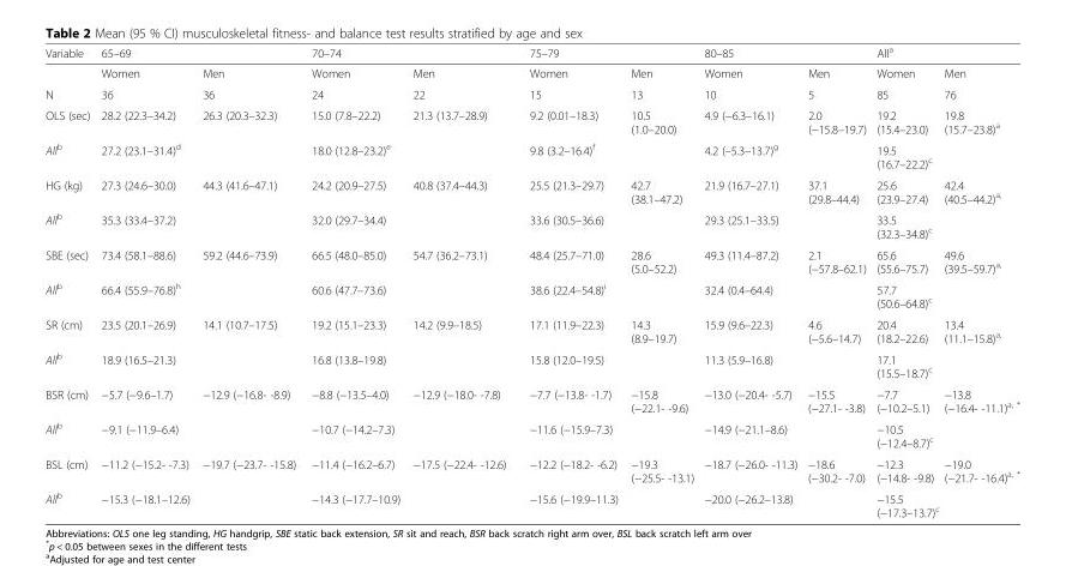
<table><thead><tr><td rowspan="2">Variable</td><td colspan="2">65–69</td><td colspan="2">70–74</td><td colspan="2">75–79</td><td colspan="2">80–85</td><td colspan="2">All<sup>a</sup></td></tr><tr><td>Women</td><td>Men</td><td>Women</td><td>Men</td><td>Women</td><td>Men</td><td>Women</td><td>Men</td><td>Women</td><td>Men</td></tr></thead><tbody><tr><td>N</td><td>36</td><td>36</td><td>24</td><td>22</td><td>15</td><td>13</td><td>10</td><td>5</td><td>85</td><td>76</td></tr><tr><td>OLS (sec)</td><td>28.2 (22.3–34.2)</td><td>26.3 (20.3–32.3)</td><td>15.0 (7.8–22.2)</td><td>21.3 (13.7–28.9)</td><td>9.2 (0.01–18.3)</td><td>10.5 (1.0–20.0)</td><td>4.9 (−6.3–16.1)</td><td>2.0 (−15.8–19.7)</td><td>19.2 (15.4–23.0)</td><td>19.8 (15.7–23.8)<sup>a</sup></td></tr><tr><td>All<sup>b</sup></td><td colspan="2">27.2 (23.1–31.4)<sup>d</sup></td><td colspan="2">18.0 (12.8–23.2)<sup>e</sup></td><td colspan="2">9.8 (3.2–16.4)<sup>f</sup></td><td colspan="2">4.2 (–5.3–13.7)<sup>g</sup></td><td colspan="2">19.5 (16.7–22.2)<sup>c</sup></td></tr><tr><td>HG (kg)</td><td>27.3 (24.6–30.0)</td><td>44.3 (41.6–47.1)</td><td>24.2 (20.9–27.5)</td><td>40.8 (37.4–44.3)</td><td>25.5 (21.3–29.7)</td><td>42.7 (38.1–47.2)</td><td>21.9 (16.7–27.1)</td><td>37.1 (29.8–44.4)</td><td>25.6 (23.9–27.4)</td><td>42.4 (40.5–44.2)<sup>a,</sup></td></tr><tr><td>All<sup>b</sup></td><td colspan="2">35.3 (33.4–37.2)</td><td colspan="2">32.0 (29.7–34.4)</td><td colspan="2">33.6 (30.5–36.6)</td><td colspan="2">29.3 (25.1–33.5)</td><td colspan="2">33.5 (32.3–34.8)<sup>c</sup></td></tr><tr><td>SBE (sec)</td><td>73.4 (58.1–88.6)</td><td>59.2 (44.6–73.9)</td><td>66.5 (48.0–85.0)</td><td>54.7 (36.2–73.1)</td><td>48.4 (25.7–71.0)</td><td>28.6 (5.0–52.2)</td><td>49.3 (11.4–87.2)</td><td>2.1 (−57.8–62.1)</td><td>65.6 (55.6–75.7)</td><td>49.6 (39.5–59.7)<sup>a,</sup></td></tr><tr><td>All<sup>b</sup></td><td colspan="2">66.4 (55.9–76.8)<sup>h</sup></td><td colspan="2">60.6 (47.7–73.6)</td><td colspan="2">38.6 (22.4–54.8)<sup>i</sup></td><td colspan="2">32.4 (0.4–64.4)</td><td colspan="2">57.7 (50.6–64.8)<sup>c</sup></td></tr><tr><td>SR (cm)</td><td>23.5 (20.1–26.9)</td><td>14.1 (10.7–17.5)</td><td>19.2 (15.1–23.3)</td><td>14.2 (9.9–18.5)</td><td>17.1 (11.9–22.3)</td><td>14.3 (8.9–19.7)</td><td>15.9 (9.6–22.3)</td><td>4.6 (−5.6–14.7)</td><td>20.4 (18.2–22.6)</td><td>13.4 (11.1–15.8)<sup>a,</sup></td></tr><tr><td>All<sup>b</sup></td><td colspan="2">18.9 (16.5–21.3)</td><td colspan="2">16.8 (13.8–19.8)</td><td colspan="2">15.8 (12.0–19.5)</td><td colspan="2">11.3 (5.9–16.8)</td><td colspan="2">17.1 (15.5–18.7)<sup>c</sup></td></tr><tr><td>BSR (cm)</td><td>−5.7 (−9.6–1.7)</td><td>−12.9 (−16.8- -8.9)</td><td>−8.8 (−13.5–4.0)</td><td>−12.9 (−18.0- -7.8)</td><td>−7.7 (−13.8- -1.7)</td><td>−15.8 (−22.1- -9.6)</td><td>−13.0 (−20.4- -5.7)</td><td>−15.5 (−27.1- -3.8)</td><td>−7.7 (−10.2–5.1)</td><td>−13.8 (−16.4- -11.1)<sup>a, *</sup></td></tr><tr><td>All<sup>b</sup></td><td colspan="2">−9.1 (−11.9–6.4)</td><td colspan="2">−10.7 (−14.2–7.3)</td><td colspan="2">−11.6 (−15.9–7.3)</td><td colspan="2">−14.9 (−21.1–8.6)</td><td colspan="2">−10.5 (−12.4–8.7)c</td></tr><tr><td>BSL (cm)</td><td>−11.2 (−15.2- -7.3)</td><td>−19.7 (−23.7- -15.8)</td><td>−11.4 (−16.2–6.7)</td><td>−17.5 (−22.4- -12.6)</td><td>−12.2 (−18.2- -6.2)</td><td>−19.3 (−25.5- -13.1)</td><td>−18.7 (−26.0- -11.3)</td><td>−18.6 (−30.2- -7.0)</td><td>−12.3 (−14.8- -9.8)</td><td>−19.0 (−21.7- -16.4)<sup>a, *</sup></td></tr><tr><td>All<sup>b</sup></td><td colspan="2">−15.3 (−18.1–12.6)</td><td colspan="2">−14.3 (−17.7–10.9)</td><td colspan="2">−15.6 (−19.9–11.3)</td><td colspan="2">−20.0 (−26.2–13.8)</td><td colspan="2">−15.5 (−17.3–13.7)c</td></tr></tbody></table>